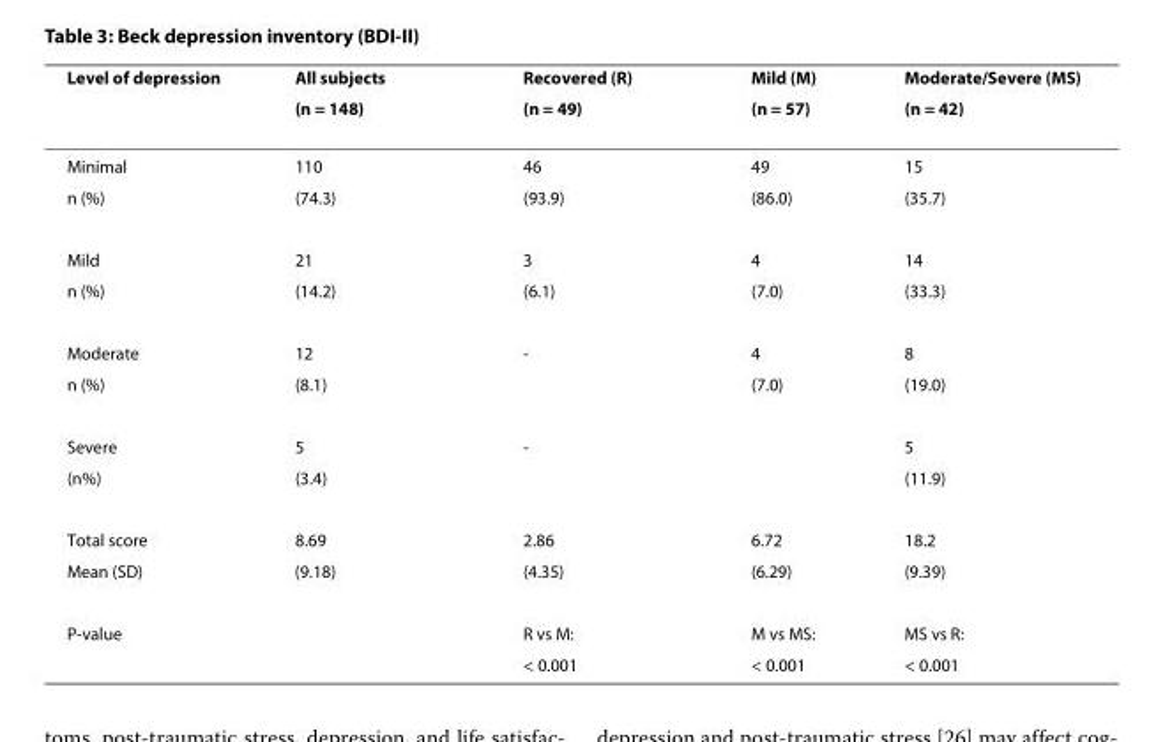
<table><thead><tr><td rowspan="2">Level of depression</td><td rowspan="2">All subjects (n = 148)</td><td rowspan="2">Recovered (R) (n = 49)</td><td rowspan="2">Mild (M) (n = 57)</td><td rowspan="2">Moderate/Severe (MS) (n = 42)</td></tr><tr></tr></thead><tbody><tr><td>Minimal</td><td>110</td><td>46</td><td>49</td><td>15</td></tr><tr><td>n (%)</td><td>(74.3)</td><td>(93.9)</td><td>(86.0)</td><td>(35.7)</td></tr><tr><td>Mild</td><td>21</td><td>3</td><td>4</td><td>14</td></tr><tr><td>n (%)</td><td>(14.2)</td><td>(6.1)</td><td>(7.0)</td><td>(33.3)</td></tr><tr><td>Moderate</td><td>12</td><td>-</td><td>4</td><td>8</td></tr><tr><td>n (%)</td><td>(8.1)</td><td></td><td>(7.0)</td><td>(19.0)</td></tr><tr><td>Severe</td><td>5</td><td>-</td><td></td><td>5</td></tr><tr><td>(n%)</td><td>(3.4)</td><td></td><td></td><td>(11.9)</td></tr><tr><td>Total score</td><td>8.69</td><td>2.86</td><td>6.72</td><td>18.2</td></tr><tr><td>Mean (SD)</td><td>(9.18)</td><td>(4.35)</td><td>(6.29)</td><td>(9.39)</td></tr><tr><td rowspan="2">P-value</td><td></td><td>R vs M:</td><td>M vs MS:</td><td>MS vs R:</td></tr><tr><td></td><td>&lt; 0.001</td><td>&lt; 0.001</td><td>&lt; 0.001</td></tr></tbody></table>